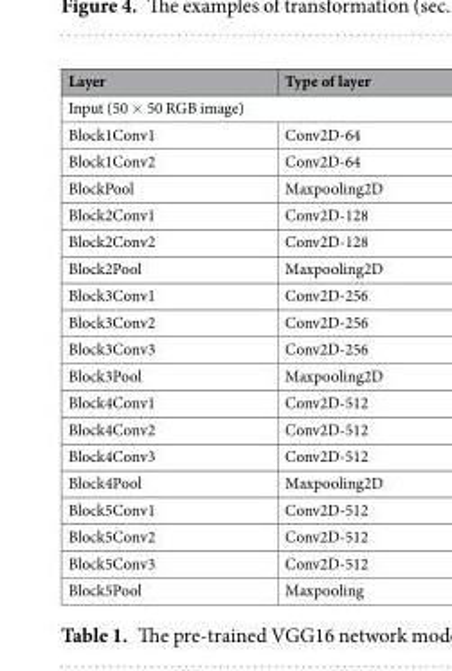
<table><thead><tr><td>Layer</td><td>Type of layer</td></tr></thead><tbody><tr><td colspan="2">Input (50 × 50 RGB image)</td></tr><tr><td>Block1Conv1</td><td>Conv2D-64</td></tr><tr><td>Block1Conv2</td><td>Conv2D-64</td></tr><tr><td>BlockPool</td><td>Maxpooling2D</td></tr><tr><td>Block2Conv1</td><td>Conv2D-128</td></tr><tr><td>Block2Conv2</td><td>Conv2D-128</td></tr><tr><td>Block2Pool</td><td>Maxpooling2D</td></tr><tr><td>Block3Conv1</td><td>Conv2D-256</td></tr><tr><td>Block3Conv2</td><td>Conv2D-256</td></tr><tr><td>Block3Conv3</td><td>Conv2D-256</td></tr><tr><td>Block3Pool</td><td>Maxpooling2D</td></tr><tr><td>Block4Conv1</td><td>Conv2D-512</td></tr><tr><td>Block4Conv2</td><td>Conv2D-512</td></tr><tr><td>Block4Conv3</td><td>Conv2D-512</td></tr><tr><td>Block4Pool</td><td>Maxpooling2D</td></tr><tr><td>Block5Conv1</td><td>Conv2D-512</td></tr><tr><td>Block5Conv2</td><td>Conv2D-512</td></tr><tr><td>Block5Conv3</td><td>Conv2D-512</td></tr><tr><td>Block5Pool</td><td>Maxpooling</td></tr></tbody></table>